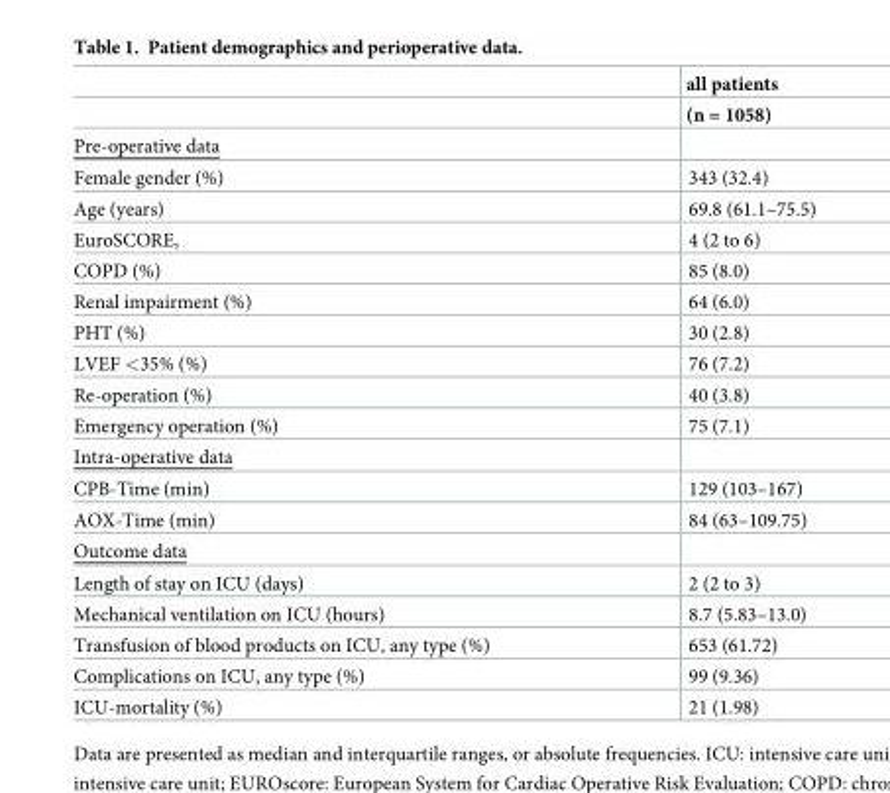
<table><thead><tr><td rowspan="2"></td><td rowspan="2">all patients (n = 1058)</td></tr><tr></tr></thead><tbody><tr><td colspan="2">Pre-operative data</td></tr><tr><td>Female gender (%)</td><td>343 (32.4)</td></tr><tr><td>Age (years)</td><td>69.8 (61.1–75.5)</td></tr><tr><td>EuroSCORE,</td><td>4 (2 to 6)</td></tr><tr><td>COPD (%)</td><td>85 (8.0)</td></tr><tr><td>Renal impairment (%)</td><td>64 (6.0)</td></tr><tr><td>PHT (%)</td><td>30 (2.8)</td></tr><tr><td>LVEF &lt;35% (%)</td><td>76 (7.2)</td></tr><tr><td>Re-operation (%)</td><td>40 (3.8)</td></tr><tr><td>Emergency operation (%)</td><td>75 (7.1)</td></tr><tr><td colspan="2">Intra-operative data</td></tr><tr><td>CPB-Time (min)</td><td>129 (103–167)</td></tr><tr><td>AOX-Time (min)</td><td>84 (63–109.75)</td></tr><tr><td colspan="2">Outcome data</td></tr><tr><td>Length of stay on ICU (days)</td><td>2 (2 to 3)</td></tr><tr><td>Mechanical ventilation on ICU (hours)</td><td>8.7 (5.83–13.0)</td></tr><tr><td>Transfusion of blood products on ICU, any type (%)</td><td>653 (61.72)</td></tr><tr><td>Complications on ICU, any type (%)</td><td>99 (9.36)</td></tr><tr><td>ICU-mortality (%)</td><td>21 (1.98)</td></tr></tbody></table>